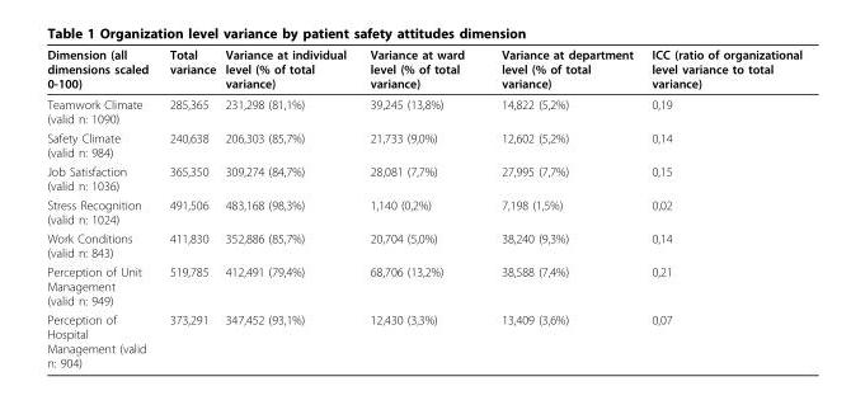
<table><thead><tr><td>Dimension (all dimensions scaled 0-100)</td><td>Total variance</td><td>Variance at individual level (% of total variance)</td><td>Variance at ward level (% of total variance)</td><td>Variance at department level (% of total variance)</td><td>ICC (ratio of organizational level variance to total variance)</td></tr></thead><tbody><tr><td>Teamwork Climate (valid n: 1090)</td><td>285,365</td><td>231,298 (81,1%)</td><td>39,245 (13,8%)</td><td>14,822 (5,2%)</td><td>0,19</td></tr><tr><td>Safety Climate (valid n: 984)</td><td>240,638</td><td>206,303 (85,7%)</td><td>21,733 (9,0%)</td><td>12,602 (5,2%)</td><td>0,14</td></tr><tr><td>Job Satisfaction (valid n: 1036)</td><td>365,350</td><td>309,274 (84,7%)</td><td>28,081 (7,7%)</td><td>27,995 (7,7%)</td><td>0,15</td></tr><tr><td>Stress Recognition (valid n: 1024)</td><td>491,506</td><td>483,168 (98,3%)</td><td>1,140 (0,2%)</td><td>7,198 (1,5%)</td><td>0,02</td></tr><tr><td>Work Conditions (valid n: 843)</td><td>411,830</td><td>352,886 (85,7%)</td><td>20,704 (5,0%)</td><td>38,240 (9,3%)</td><td>0,14</td></tr><tr><td>Perception of Unit Management (valid n: 949)</td><td>519,785</td><td>412,491 (79,4%)</td><td>68,706 (13,2%)</td><td>38,588 (7,4%)</td><td>0,21</td></tr><tr><td>Perception of Hospital Management (valid n: 904)</td><td>373,291</td><td>347,452 (93,1%)</td><td>12,430 (3,3%)</td><td>13,409 (3,6%)</td><td>0,07</td></tr></tbody></table>